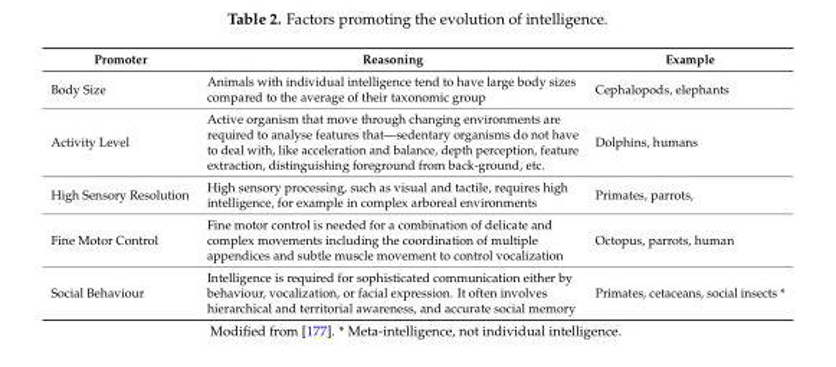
<table><thead><tr><td>Promoter</td><td>Reasoning</td><td>Example</td></tr></thead><tbody><tr><td>Body Size</td><td>Animals with individual intelligence tend to have large body sizes compared to the average of their taxonomic group</td><td>Cephalopods, elephants</td></tr><tr><td>Activity Level</td><td>Active organism that move through changing environments are required to analyse features that—sedentary organisms do not have to deal with, like acceleration and balance, depth perception, feature extraction, distinguishing foreground from back-ground, etc.</td><td>Dolphins, humans</td></tr><tr><td>High Sensory Resolution</td><td>High sensory processing, such as visual and tactile, requires high intelligence, for example in complex arboreal environments</td><td>Primates, parrots,</td></tr><tr><td>Fine Motor Control</td><td>Fine motor control is needed for a combination of delicate and complex movements including the coordination of multiple appendices and subtle muscle movement to control vocalization</td><td>Octopus, parrots, human</td></tr><tr><td>Social Behaviour</td><td>Intelligence is required for sophisticated communication either by behaviour, vocalization, or facial expression. It often involves hierarchical and territorial awareness, and accurate social memory</td><td>Primates, cetaceans, social insects *</td></tr></tbody></table>